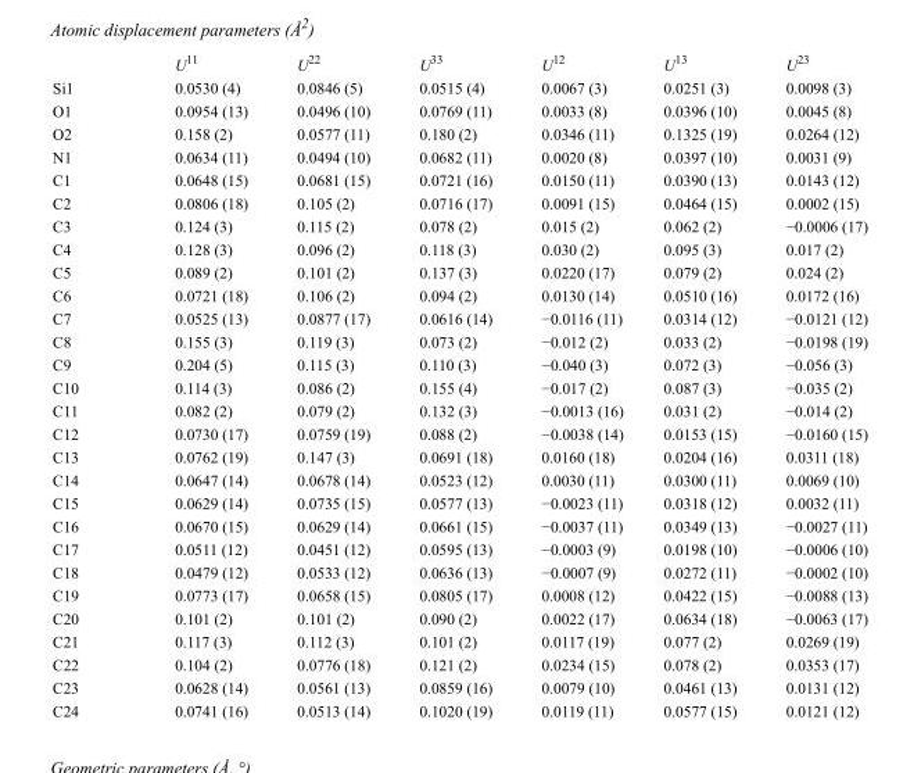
<table><thead><tr><td></td><td>U<sup>11</sup></td><td>U<sup>22</sup></td><td>U<sup>33</sup></td><td>U<sup>12</sup></td><td>U<sup>13</sup></td><td>U<sup>23</sup></td></tr></thead><tbody><tr><td>Si1</td><td>0.0530 (4)</td><td>0.0846 (5)</td><td>0.0515 (4)</td><td>0.0067 (3)</td><td>0.0251 (3)</td><td>0.0098 (3)</td></tr><tr><td>O1</td><td>0.0954 (13)</td><td>0.0496 (10)</td><td>0.0769 (11)</td><td>0.0033 (8)</td><td>0.0396 (10)</td><td>0.0045 (8)</td></tr><tr><td>O2</td><td>0.158 (2)</td><td>0.0577 (11)</td><td>0.180 (2)</td><td>0.0346 (11)</td><td>0.1325 (19)</td><td>0.0264 (12)</td></tr><tr><td>N1</td><td>0.0634 (11)</td><td>0.0494 (10)</td><td>0.0682 (11)</td><td>0.0020 (8)</td><td>0.0397 (10)</td><td>0.0031 (9)</td></tr><tr><td>C1</td><td>0.0648 (15)</td><td>0.0681 (15)</td><td>0.0721 (16)</td><td>0.0150 (11)</td><td>0.0390 (13)</td><td>0.0143 (12)</td></tr><tr><td>C2</td><td>0.0806 (18)</td><td>0.105 (2)</td><td>0.0716 (17)</td><td>0.0091 (15)</td><td>0.0464 (15)</td><td>0.0002 (15)</td></tr><tr><td>C3</td><td>0.124 (3)</td><td>0.115 (2)</td><td>0.078 (2)</td><td>0.015 (2)</td><td>0.062 (2)</td><td>−0.0006 (17)</td></tr><tr><td>C4</td><td>0.128 (3)</td><td>0.096 (2)</td><td>0.118 (3)</td><td>0.030 (2)</td><td>0.095 (3)</td><td>0.017 (2)</td></tr><tr><td>C5</td><td>0.089 (2)</td><td>0.101 (2)</td><td>0.137 (3)</td><td>0.0220 (17)</td><td>0.079 (2)</td><td>0.024 (2)</td></tr><tr><td>C6</td><td>0.0721 (18)</td><td>0.106 (2)</td><td>0.094 (2)</td><td>0.0130 (14)</td><td>0.0510 (16)</td><td>0.0172 (16)</td></tr><tr><td>C7</td><td>0.0525 (13)</td><td>0.0877 (17)</td><td>0.0616 (14)</td><td>−0.0116 (11)</td><td>0.0314 (12)</td><td>−0.0121 (12)</td></tr><tr><td>C8</td><td>0.155 (3)</td><td>0.119 (3)</td><td>0.073 (2)</td><td>−0.012 (2)</td><td>0.033 (2)</td><td>−0.0198 (19)</td></tr><tr><td>C9</td><td>0.204 (5)</td><td>0.115 (3)</td><td>0.110 (3)</td><td>−0.040 (3)</td><td>0.072 (3)</td><td>−0.056 (3)</td></tr><tr><td>C10</td><td>0.114 (3)</td><td>0.086 (2)</td><td>0.155 (4)</td><td>−0.017 (2)</td><td>0.087 (3)</td><td>−0.035 (2)</td></tr><tr><td>C11</td><td>0.082 (2)</td><td>0.079 (2)</td><td>0.132 (3)</td><td>−0.0013 (16)</td><td>0.031 (2)</td><td>−0.014 (2)</td></tr><tr><td>C12</td><td>0.0730 (17)</td><td>0.0759 (19)</td><td>0.088 (2)</td><td>−0.0038 (14)</td><td>0.0153 (15)</td><td>−0.0160 (15)</td></tr><tr><td>C13</td><td>0.0762 (19)</td><td>0.147 (3)</td><td>0.0691 (18)</td><td>0.0160 (18)</td><td>0.0204 (16)</td><td>0.0311 (18)</td></tr><tr><td>C14</td><td>0.0647 (14)</td><td>0.0678 (14)</td><td>0.0523 (12)</td><td>0.0030 (11)</td><td>0.0300 (11)</td><td>0.0069 (10)</td></tr><tr><td>C15</td><td>0.0629 (14)</td><td>0.0735 (15)</td><td>0.0577 (13)</td><td>−0.0023 (11)</td><td>0.0318 (12)</td><td>0.0032 (11)</td></tr><tr><td>C16</td><td>0.0670 (15)</td><td>0.0629 (14)</td><td>0.0661 (15)</td><td>−0.0037 (11)</td><td>0.0349 (13)</td><td>−0.0027 (11)</td></tr><tr><td>C17</td><td>0.0511 (12)</td><td>0.0451 (12)</td><td>0.0595 (13)</td><td>−0.0003 (9)</td><td>0.0198 (10)</td><td>−0.0006 (10)</td></tr><tr><td>C18</td><td>0.0479 (12)</td><td>0.0533 (12)</td><td>0.0636 (13)</td><td>−0.0007 (9)</td><td>0.0272 (11)</td><td>−0.0002 (10)</td></tr><tr><td>C19</td><td>0.0773 (17)</td><td>0.0658 (15)</td><td>0.0805 (17)</td><td>0.0008 (12)</td><td>0.0422 (15)</td><td>−0.0088 (13)</td></tr><tr><td>C20</td><td>0.101 (2)</td><td>0.101 (2)</td><td>0.090 (2)</td><td>0.0022 (17)</td><td>0.0634 (18)</td><td>−0.0063 (17)</td></tr><tr><td>C21</td><td>0.117 (3)</td><td>0.112 (3)</td><td>0.101 (2)</td><td>0.0117 (19)</td><td>0.077 (2)</td><td>0.0269 (19)</td></tr><tr><td>C22</td><td>0.104 (2)</td><td>0.0776 (18)</td><td>0.121 (2)</td><td>0.0234 (15)</td><td>0.078 (2)</td><td>0.0353 (17)</td></tr><tr><td>C23</td><td>0.0628 (14)</td><td>0.0561 (13)</td><td>0.0859 (16)</td><td>0.0079 (10)</td><td>0.0461 (13)</td><td>0.0131 (12)</td></tr><tr><td>C24</td><td>0.0741 (16)</td><td>0.0513 (14)</td><td>0.1020 (19)</td><td>0.0119 (11)</td><td>0.0577 (15)</td><td>0.0121 (12)</td></tr></tbody></table>